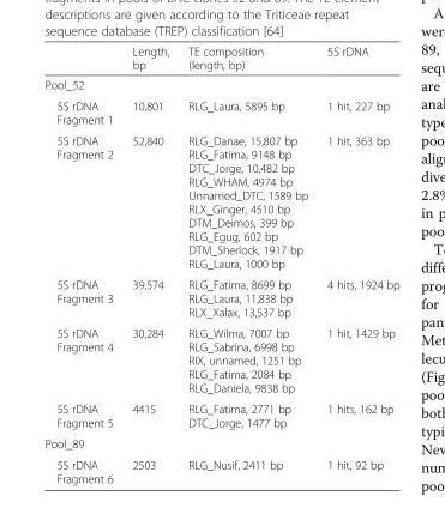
<table><thead><tr><td></td><td>Length, bp</td><td>TE composition (length, bp)</td><td>5S rDNA</td></tr></thead><tbody><tr><td colspan="4">Pool_52</td></tr><tr><td>5S rDNA Fragment 1</td><td>10,801</td><td>RLG_Laura, 5895 bp</td><td>1 hit, 227 bp</td></tr><tr><td>5S rDNA Fragment 2</td><td>52,840</td><td>RLG_Danae, 15,807 bp RLG_Fatima, 9148 bp DTC_Jorge, 10,482 bp RLG_WHAM, 4974 bp Unnamed_DTC, 1589 bp RLX_Ginger, 4510 bp DTM_Deimos, 399 bp RLG_Egug, 602 bp DTM_Sherlock, 1917 bp RLG_Laura, 1000 bp</td><td>1 hit, 363 bp</td></tr><tr><td>5S rDNA Fragment 3</td><td>39,574</td><td>RLG_Fatima, 8699 bp RLG_Laura, 11,838 bp RLX_Xalax, 13,537 bp</td><td>4 hits, 1924 bp</td></tr><tr><td>5S rDNA Fragment 4</td><td>30,284</td><td>RLG_Wilma, 7007 bp RLG_Sabrina, 6998 bp RIX, unnamed, 1251 bp RLG_Fatima, 2084 bp RLG_Daniela, 9838 bp</td><td>1 hit, 1429 bp</td></tr><tr><td>5S rDNA Fragment 5</td><td>4415</td><td>RLG_Fatima, 2771 bp DTC_Jorge, 1477 bp</td><td>1 hits, 162 bp</td></tr><tr><td colspan="4">Pool_89</td></tr><tr><td>5S rDNA Fragment 6</td><td>2503</td><td>RLG_Nusif, 2411 bp</td><td>1 hit, 92 bp</td></tr></tbody></table>